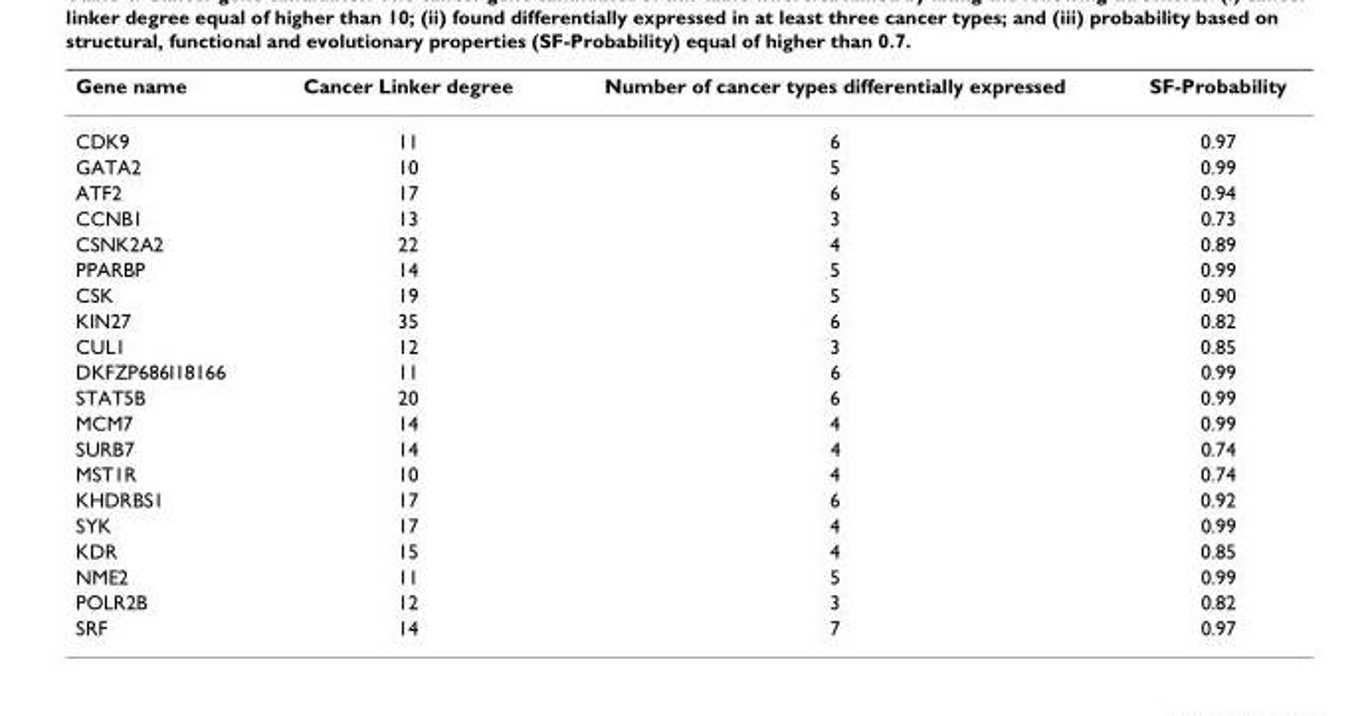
<table><thead><tr><td>Gene name</td><td>Cancer Linker degree</td><td>Number of cancer types differentially expressed</td><td>SF-Probability</td></tr></thead><tbody><tr><td>CDK9</td><td>11</td><td>6</td><td>0.97</td></tr><tr><td>GATA2</td><td>10</td><td>5</td><td>0.99</td></tr><tr><td>ATF2</td><td>17</td><td>6</td><td>0.94</td></tr><tr><td>CCNB1</td><td>13</td><td>3</td><td>0.73</td></tr><tr><td>CSNK2A2</td><td>22</td><td>4</td><td>0.89</td></tr><tr><td>PPARBP</td><td>14</td><td>5</td><td>0.99</td></tr><tr><td>CSK</td><td>19</td><td>5</td><td>0.90</td></tr><tr><td>KIN27</td><td>35</td><td>6</td><td>0.82</td></tr><tr><td>CUL1</td><td>12</td><td>3</td><td>0.85</td></tr><tr><td>DKFZP686I18166</td><td>11</td><td>6</td><td>0.99</td></tr><tr><td>STAT5B</td><td>20</td><td>6</td><td>0.99</td></tr><tr><td>MCM7</td><td>14</td><td>4</td><td>0.99</td></tr><tr><td>SURB7</td><td>14</td><td>4</td><td>0.74</td></tr><tr><td>MST1R</td><td>10</td><td>4</td><td>0.74</td></tr><tr><td>KHDRBS1</td><td>17</td><td>6</td><td>0.92</td></tr><tr><td>SYK</td><td>17</td><td>4</td><td>0.99</td></tr><tr><td>KDR</td><td>15</td><td>4</td><td>0.85</td></tr><tr><td>NME2</td><td>11</td><td>5</td><td>0.99</td></tr><tr><td>POLR2B</td><td>12</td><td>3</td><td>0.82</td></tr><tr><td>SRF</td><td>14</td><td>7</td><td>0.97</td></tr></tbody></table>